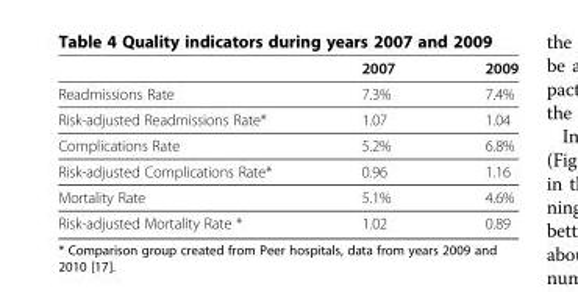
<table><thead><tr><td></td><td>2007</td><td>2009</td></tr></thead><tbody><tr><td>Readmissions Rate</td><td>7.3%</td><td>7.4%</td></tr><tr><td>Risk-adjusted Readmissions Rate*</td><td>1.07</td><td>1.04</td></tr><tr><td>Complications Rate</td><td>5.2%</td><td>6.8%</td></tr><tr><td>Risk-adjusted Complications Rate*</td><td>0.96</td><td>1.16</td></tr><tr><td>Mortality Rate</td><td>5.1%</td><td>4.6%</td></tr><tr><td>Risk-adjusted Mortality Rate *</td><td>1.02</td><td>0.89</td></tr></tbody></table>